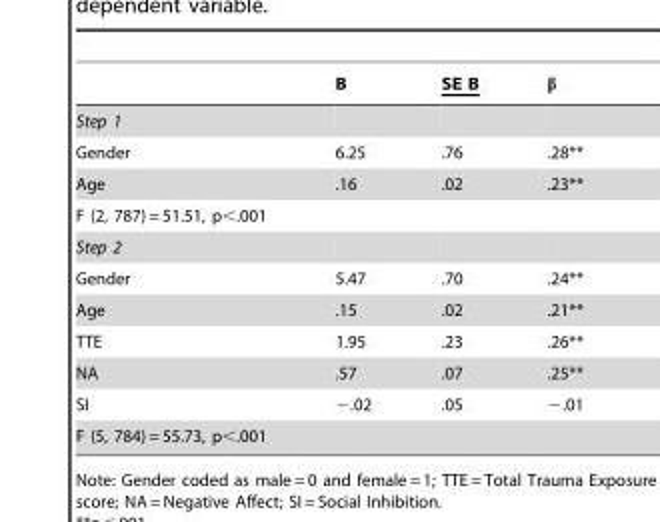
<table><thead><tr><td></td><td>B</td><td>SE B</td><td>β</td></tr></thead><tbody><tr><td colspan="4">Step 1</td></tr><tr><td>Gender</td><td>6.25</td><td>.76</td><td>.28**</td></tr><tr><td>Age</td><td>.16</td><td>.02</td><td>.23**</td></tr><tr><td colspan="4">F (2, 787) = 51.51, p&lt;.001</td></tr><tr><td colspan="4">Step 2</td></tr><tr><td>Gender</td><td>5.47</td><td>.70</td><td>.24**</td></tr><tr><td>Age</td><td>.15</td><td>.02</td><td>.21**</td></tr><tr><td>TTE</td><td>1.95</td><td>.23</td><td>.26**</td></tr><tr><td>NA</td><td>.57</td><td>.07</td><td>.25**</td></tr><tr><td>SI</td><td>−.02</td><td>.05</td><td>−.01</td></tr><tr><td colspan="4">F (5, 784) = 55.73, p&lt;.001</td></tr></tbody></table>